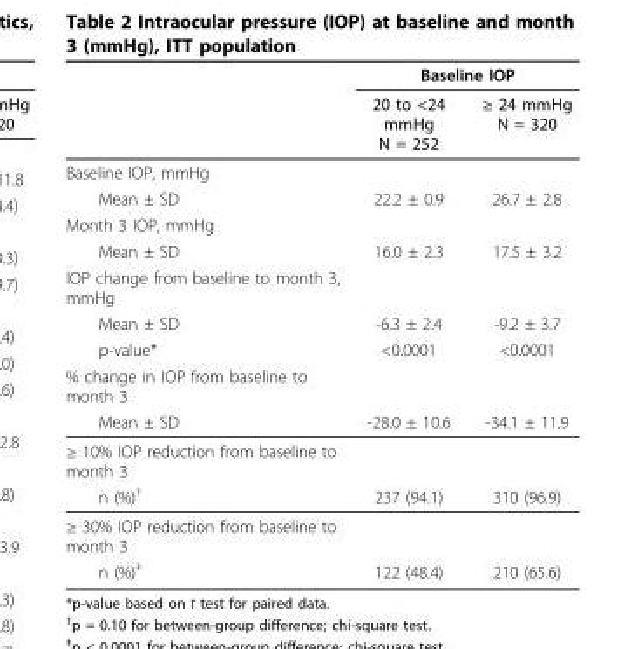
<table><thead><tr><td rowspan="2"></td><td colspan="2">Baseline IOP</td></tr><tr><td>20 to &lt;24 mmHg N = 252</td><td>≥ 24 mmHg N = 320</td></tr></thead><tbody><tr><td colspan="3">Baseline IOP, mmHg</td></tr><tr><td>Mean ± SD</td><td>22.2 ± 0.9</td><td>26.7 ± 2.8</td></tr><tr><td colspan="3">Month 3 IOP, mmHg</td></tr><tr><td>Mean ± SD</td><td>16.0 ± 2.3</td><td>17.5 ± 3.2</td></tr><tr><td colspan="3">IOP change from baseline to month 3, mmHg</td></tr><tr><td>Mean ± SD</td><td>-6.3 ± 2.4</td><td>-9.2 ± 3.7</td></tr><tr><td>p-value*</td><td>&lt;0.0001</td><td>&lt;0.0001</td></tr><tr><td colspan="3">% change in IOP from baseline to month 3</td></tr><tr><td>Mean ± SD</td><td>-28.0 ± 10.6</td><td>-34.1 ± 11.9</td></tr><tr><td colspan="3">≥ 10% IOP reduction from baseline to month 3</td></tr><tr><td>n (%)<sup>†</sup></td><td>237 (94.1)</td><td>310 (96.9)</td></tr><tr><td colspan="3">≥ 30% IOP reduction from baseline to month 3</td></tr><tr><td>n (%)<sup>‡</sup></td><td>122 (48.4)</td><td>210 (65.6)</td></tr></tbody></table>